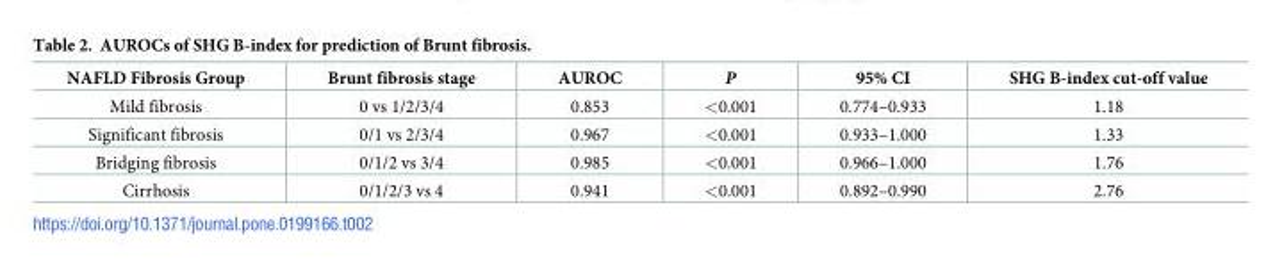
<table><thead><tr><td>NAFLD Fibrosis Group</td><td>Brunt fibrosis stage</td><td>AUROC</td><td>P</td><td>95% CI</td><td>SHG B-index cut-off value</td></tr></thead><tbody><tr><td>Mild fibrosis</td><td>0 vs 1/2/3/4</td><td>0.853</td><td>&lt;0.001</td><td>0.774–0.933</td><td>1.18</td></tr><tr><td>Significant fibrosis</td><td>0/1 vs 2/3/4</td><td>0.967</td><td>&lt;0.001</td><td>0.933–1.000</td><td>1.33</td></tr><tr><td>Bridging fibrosis</td><td>0/1/2 vs 3/4</td><td>0.985</td><td>&lt;0.001</td><td>0.966–1.000</td><td>1.76</td></tr><tr><td>Cirrhosis</td><td>0/1/2/3 vs 4</td><td>0.941</td><td>&lt;0.001</td><td>0.892–0.990</td><td>2.76</td></tr></tbody></table>